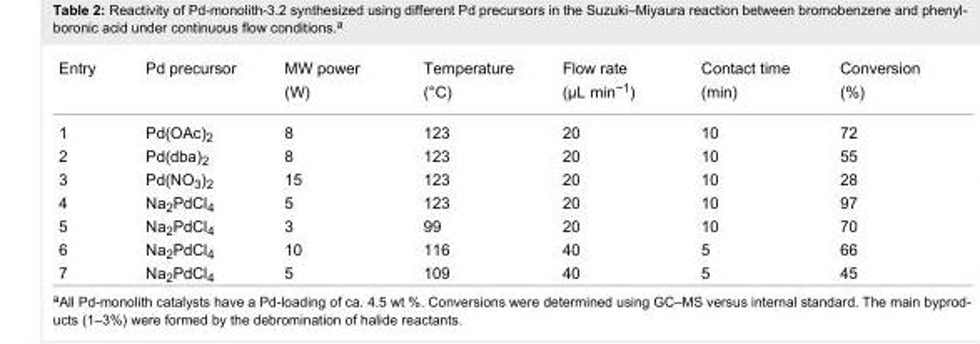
<table><tbody><tr><td>Entry</td><td>Pd precursor</td><td>MW power</td><td>Temperature</td><td>Flow rate</td><td>Contact time</td><td>Conversion</td></tr><tr><td colspan="2"></td><td>(W)</td><td>(°C)</td><td>(μL min<sup>−1</sup>)</td><td>(min)</td><td>(%)</td></tr><tr><td>1</td><td>Pd(OAc)<sub>2</sub></td><td>8</td><td>123</td><td>20</td><td>10</td><td>72</td></tr><tr><td>2</td><td>Pd(dba)<sub>2</sub></td><td>8</td><td>123</td><td>20</td><td>10</td><td>55</td></tr><tr><td>3</td><td>Pd(NO<sub>3</sub>)<sub>2</sub></td><td>15</td><td>123</td><td>20</td><td>10</td><td>28</td></tr><tr><td>4</td><td>Na<sub>2</sub>PdCl<sub>4</sub></td><td>5</td><td>123</td><td>20</td><td>10</td><td>97</td></tr><tr><td>5</td><td>Na<sub>2</sub>PdCl<sub>4</sub></td><td>3</td><td>99</td><td>20</td><td>10</td><td>70</td></tr><tr><td>6</td><td>Na<sub>2</sub>PdCl<sub>4</sub></td><td>10</td><td>116</td><td>40</td><td>5</td><td>66</td></tr><tr><td>7</td><td>Na<sub>2</sub>PdCl<sub>4</sub></td><td>5</td><td>109</td><td>40</td><td>5</td><td>45</td></tr></tbody></table>